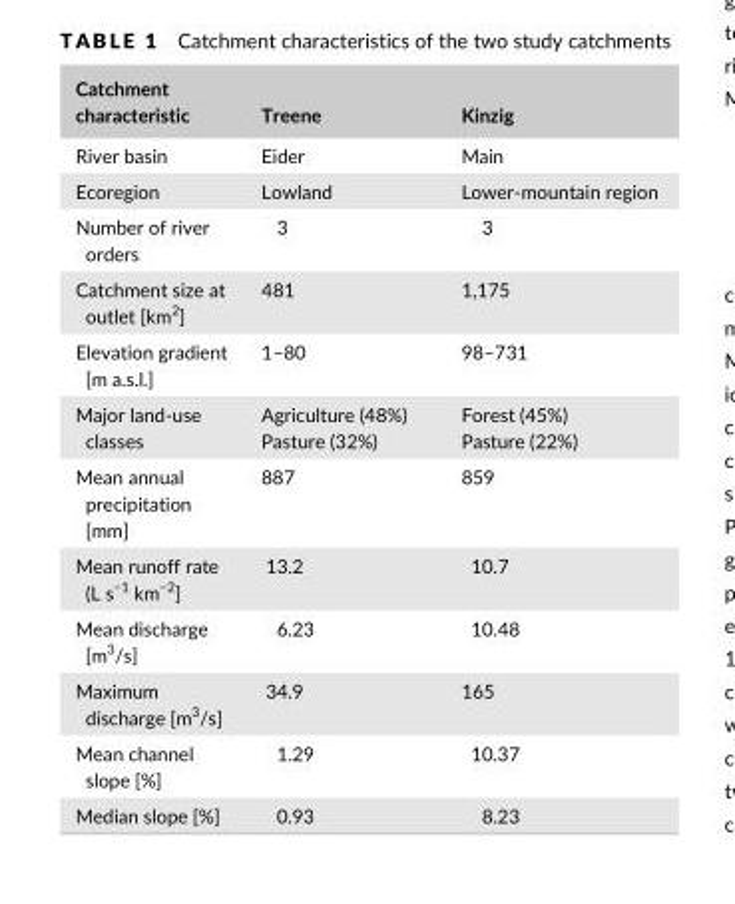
<table><thead><tr><td>Catchment characteristic</td><td>Treene</td><td>Kinzig</td></tr></thead><tbody><tr><td>River basin</td><td>Eider</td><td>Main</td></tr><tr><td>Ecoregion</td><td>Lowland</td><td>Lower- mountain region</td></tr><tr><td>Number of river orders</td><td>3</td><td>3</td></tr><tr><td>Catchment size at outlet [km<sup>2</sup>]</td><td>481</td><td>1,175</td></tr><tr><td>Elevation gradient [m a.s.l.]</td><td>1–80</td><td>98–731</td></tr><tr><td>Major land- use classes</td><td>Agriculture (48%) Pasture (32%)</td><td>Forest (45%) Pasture (22%)</td></tr><tr><td>Mean annual precipitation [mm]</td><td>887</td><td>859</td></tr><tr><td>Mean runoff rate (L s<sup>−1</sup> km<sup>−2</sup>]</td><td>13.2</td><td>10.7</td></tr><tr><td>Mean discharge [m<sup>3</sup>/s]</td><td>6.23</td><td>10.48</td></tr><tr><td>Maximum discharge [m<sup>3</sup>/s]</td><td>34.9</td><td>165</td></tr><tr><td>Mean channel slope [%]</td><td>1.29</td><td>10.37</td></tr><tr><td>Median slope [%]</td><td>0.93</td><td>8.23</td></tr></tbody></table>